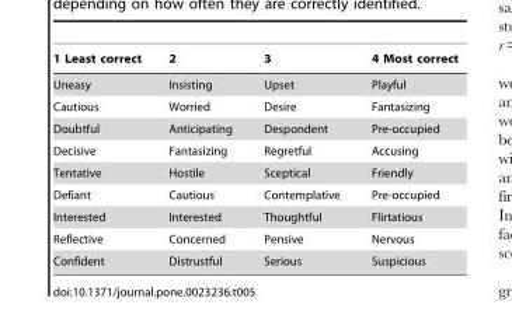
<table><thead><tr><td>1 Least correct</td><td>2</td><td>3</td><td>4 Most correct</td></tr></thead><tbody><tr><td>Uneasy</td><td>Insisting</td><td>Upset</td><td>Playful</td></tr><tr><td>Cautious</td><td>Worried</td><td>Desire</td><td>Fantasizing</td></tr><tr><td>Doubtful</td><td>Anticipating</td><td>Despondent</td><td>Pre-occupied</td></tr><tr><td>Decisive</td><td>Fantasizing</td><td>Regretful</td><td>Accusing</td></tr><tr><td>Tentative</td><td>Hostile</td><td>Sceptical</td><td>Friendly</td></tr><tr><td>Defiant</td><td>Cautious</td><td>Contemplative</td><td>Pre-occupied</td></tr><tr><td>Interested</td><td>Interested</td><td>Thoughtful</td><td>Flirtatious</td></tr><tr><td>Reflective</td><td>Concerned</td><td>Pensive</td><td>Nervous</td></tr><tr><td>Confident</td><td>Distrustful</td><td>Serious</td><td>Suspicious</td></tr></tbody></table>